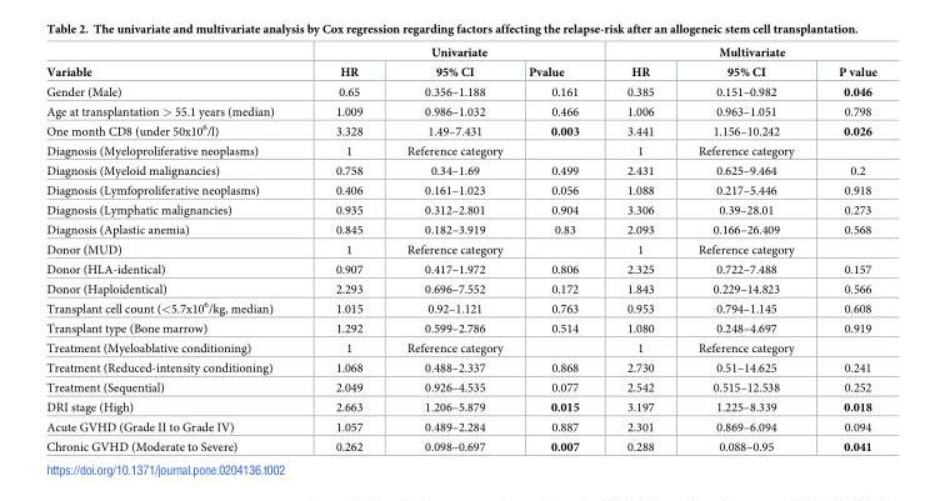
<table><thead><tr><td rowspan="2">Variable</td><td colspan="3">Univariate</td><td colspan="3">Multivariate</td></tr><tr><td>HR</td><td>95% CI</td><td>Pvalue</td><td>HR</td><td>95% CI</td><td>P value</td></tr></thead><tbody><tr><td>Gender (Male)</td><td>0.65</td><td>0.356–1.188</td><td>0.161</td><td>0.385</td><td>0.151–0.982</td><td>0.046</td></tr><tr><td>Age at transplantation &gt; 55.1 years (median)</td><td>1.009</td><td>0.986–1.032</td><td>0.466</td><td>1.006</td><td>0.963–1.051</td><td>0.798</td></tr><tr><td>One month CD8 (under 50x10<sup>6</sup>/l)</td><td>3.328</td><td>1.49–7.431</td><td>0.003</td><td>3.441</td><td>1.156–10.242</td><td>0.026</td></tr><tr><td>Diagnosis (Myeloproliferative neoplasms)</td><td>1</td><td>Reference category</td><td></td><td>1</td><td>Reference category</td><td></td></tr><tr><td>Diagnosis (Myeloid malignancies)</td><td>0.758</td><td>0.34–1.69</td><td>0.499</td><td>2.431</td><td>0.625–9.464</td><td>0.2</td></tr><tr><td>Diagnosis (Lymfoproliferative neoplasms)</td><td>0.406</td><td>0.161–1.023</td><td>0.056</td><td>1.088</td><td>0.217–5.446</td><td>0.918</td></tr><tr><td>Diagnosis (Lymphatic malignancies)</td><td>0.935</td><td>0.312–2.801</td><td>0.904</td><td>3.306</td><td>0.39–28.01</td><td>0.273</td></tr><tr><td>Diagnosis (Aplastic anemia)</td><td>0.845</td><td>0.182–3.919</td><td>0.83</td><td>2.093</td><td>0.166–26.409</td><td>0.568</td></tr><tr><td>Donor (MUD)</td><td>1</td><td>Reference category</td><td></td><td>1</td><td>Reference category</td><td></td></tr><tr><td>Donor (HLA-identical)</td><td>0.907</td><td>0.417–1.972</td><td>0.806</td><td>2.325</td><td>0.722–7.488</td><td>0.157</td></tr><tr><td>Donor (Haploidentical)</td><td>2.293</td><td>0.696–7.552</td><td>0.172</td><td>1.843</td><td>0.229–14.823</td><td>0.566</td></tr><tr><td>Transplant cell count (&lt;5.7x10<sup>6</sup>/kg, median)</td><td>1.015</td><td>0.92–1.121</td><td>0.763</td><td>0.953</td><td>0.794–1.145</td><td>0.608</td></tr><tr><td>Transplant type (Bone marrow)</td><td>1.292</td><td>0.599–2.786</td><td>0.514</td><td>1.080</td><td>0.248–4.697</td><td>0.919</td></tr><tr><td>Treatment (Myeloablative conditioning)</td><td>1</td><td>Reference category</td><td></td><td>1</td><td>Reference category</td><td></td></tr><tr><td>Treatment (Reduced-intensity conditioning)</td><td>1.068</td><td>0.488–2.337</td><td>0.868</td><td>2.730</td><td>0.51–14.625</td><td>0.241</td></tr><tr><td>Treatment (Sequential)</td><td>2.049</td><td>0.926–4.535</td><td>0.077</td><td>2.542</td><td>0.515–12.538</td><td>0.252</td></tr><tr><td>DRI stage (High)</td><td>2.663</td><td>1.206–5.879</td><td>0.015</td><td>3.197</td><td>1.225–8.339</td><td>0.018</td></tr><tr><td>Acute GVHD (Grade II to Grade IV)</td><td>1.057</td><td>0.489–2.284</td><td>0.887</td><td>2.301</td><td>0.869–6.094</td><td>0.094</td></tr><tr><td>Chronic GVHD (Moderate to Severe)</td><td>0.262</td><td>0.098–0.697</td><td>0.007</td><td>0.288</td><td>0.088–0.95</td><td>0.041</td></tr></tbody></table>